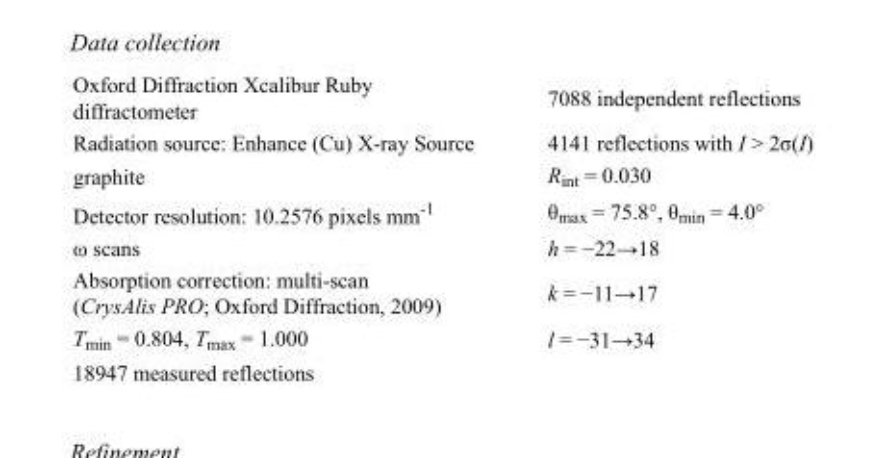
<table><tbody><tr><td>Oxford Diffraction Xcalibur Ruby diffractometer</td><td>7088 independent reflections</td></tr><tr><td>Radiation source: Enhance (Cu) X-ray Source</td><td>4141 reflections with I &gt; 2σ(I)</td></tr><tr><td>graphite</td><td>R<sub>int</sub> = 0.030</td></tr><tr><td>Detector resolution: 10.2576 pixels mm<sup>-1</sup></td><td>θ<sub>max</sub> = 75.8°, θ<sub>min</sub> = 4.0°</td></tr><tr><td>ω scans</td><td>h = −22→18</td></tr><tr><td>Absorption correction: multi-scan (CrysAlis PRO; Oxford Diffraction, 2009)</td><td>k = −11→17</td></tr><tr><td>T<sub>min</sub> = 0.804, T<sub>max</sub> = 1.000</td><td>l = −31→34</td></tr><tr><td>18947 measured reflections</td><td></td></tr></tbody></table>